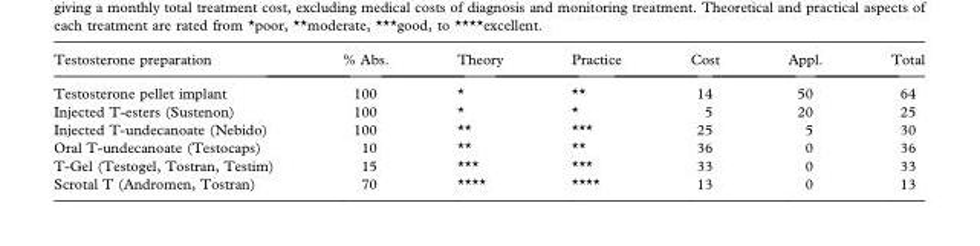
<table><thead><tr><td>Testosterone preparation</td><td>% Abs.</td><td>Theory</td><td>Practice</td><td>Cost</td><td>Appl.</td><td>Total</td></tr></thead><tbody><tr><td>Testosterone pellet implant</td><td>100</td><td>*</td><td>**</td><td>14</td><td>50</td><td>64</td></tr><tr><td>Injected T-esters (Sustenon)</td><td>100</td><td>*</td><td>*</td><td>5</td><td>20</td><td>25</td></tr><tr><td>Injected T-undecanoate (Nebido)</td><td>100</td><td>**</td><td>***</td><td>25</td><td>5</td><td>30</td></tr><tr><td>Oral T-undecanoate (Testocaps)</td><td>10</td><td>**</td><td>**</td><td>36</td><td>0</td><td>36</td></tr><tr><td>T-Gel (Testogel, Tostran, Testim)</td><td>15</td><td>***</td><td>***</td><td>33</td><td>0</td><td>33</td></tr><tr><td>Scrotal T (Andromen, Tostran)</td><td>70</td><td>****</td><td>****</td><td>13</td><td>0</td><td>13</td></tr></tbody></table>